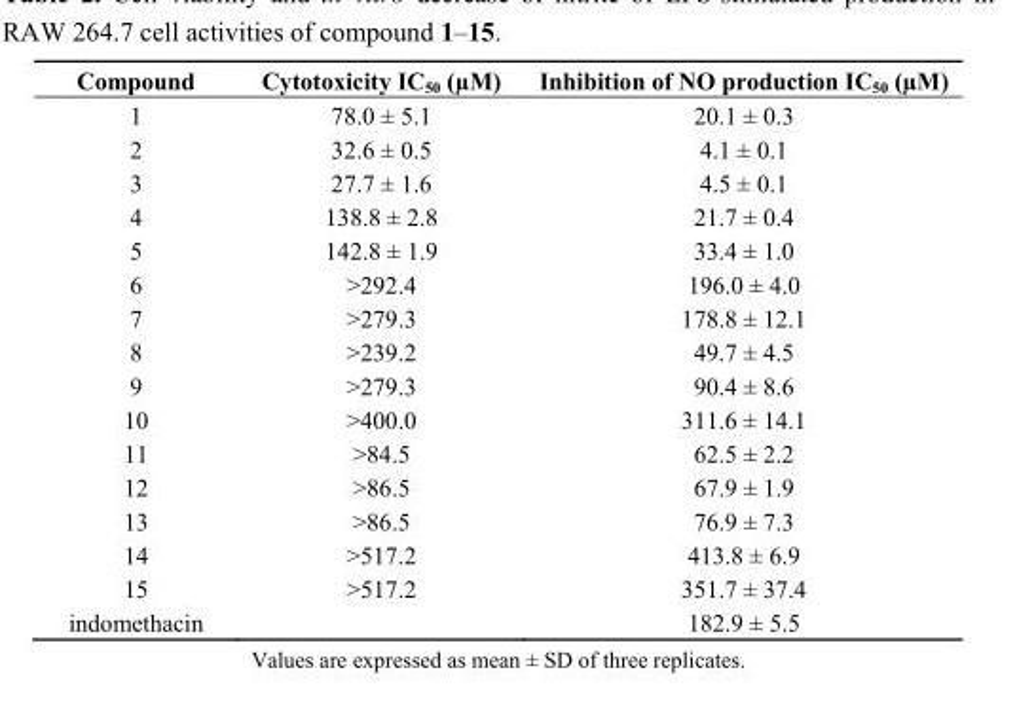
<table><thead><tr><td>Compound</td><td>Cytotoxicity IC<sub>50</sub> (µM)</td><td>Inhibition of NO production IC<sub>50</sub> (µM)</td></tr></thead><tbody><tr><td>1</td><td>78.0 ± 5.1</td><td>20.1 ± 0.3</td></tr><tr><td>2</td><td>32.6 ± 0.5</td><td>4.1 ± 0.1</td></tr><tr><td>3</td><td>27.7 ± 1.6</td><td>4.5 ± 0.1</td></tr><tr><td>4</td><td>138.8 ± 2.8</td><td>21.7 ± 0.4</td></tr><tr><td>5</td><td>142.8 ± 1.9</td><td>33.4 ± 1.0</td></tr><tr><td>6</td><td>&gt;292.4</td><td>196.0 ± 4.0</td></tr><tr><td>7</td><td>&gt;279.3</td><td>178.8 ± 12.1</td></tr><tr><td>8</td><td>&gt;239.2</td><td>49.7 ± 4.5</td></tr><tr><td>9</td><td>&gt;279.3</td><td>90.4 ± 8.6</td></tr><tr><td>10</td><td>&gt;400.0</td><td>311.6 ± 14.1</td></tr><tr><td>11</td><td>&gt;84.5</td><td>62.5 ± 2.2</td></tr><tr><td>12</td><td>&gt;86.5</td><td>67.9 ± 1.9</td></tr><tr><td>13</td><td>&gt;86.5</td><td>76.9 ± 7.3</td></tr><tr><td>14</td><td>&gt;517.2</td><td>413.8 ± 6.9</td></tr><tr><td>15</td><td>&gt;517.2</td><td>351.7 ± 37.4</td></tr><tr><td>indomethacin</td><td></td><td>182.9 ± 5.5</td></tr></tbody></table>